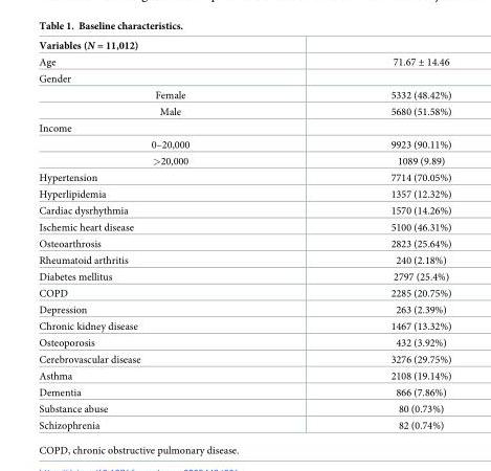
<table><thead><tr><td>Variables (N = 11,012)</td><td></td></tr></thead><tbody><tr><td>Age</td><td>71.67 ± 14.46</td></tr><tr><td colspan="2">Gender</td></tr><tr><td>Female</td><td>5332 (48.42%)</td></tr><tr><td>Male</td><td>5680 (51.58%)</td></tr><tr><td colspan="2">Income</td></tr><tr><td>0–20,000</td><td>9923 (90.11%)</td></tr><tr><td>&gt;20,000</td><td>1089 (9.89)</td></tr><tr><td>Hypertension</td><td>7714 (70.05%)</td></tr><tr><td>Hyperlipidemia</td><td>1357 (12.32%)</td></tr><tr><td>Cardiac dysrhythmia</td><td>1570 (14.26%)</td></tr><tr><td>Ischemic heart disease</td><td>5100 (46.31%)</td></tr><tr><td>Osteoarthrosis</td><td>2823 (25.64%)</td></tr><tr><td>Rheumatoid arthritis</td><td>240 (2.18%)</td></tr><tr><td>Diabetes mellitus</td><td>2797 (25.4%)</td></tr><tr><td>COPD</td><td>2285 (20.75%)</td></tr><tr><td>Depression</td><td>263 (2.39%)</td></tr><tr><td>Chronic kidney disease</td><td>1467 (13.32%)</td></tr><tr><td>Osteoporosis</td><td>432 (3.92%)</td></tr><tr><td>Cerebrovascular disease</td><td>3276 (29.75%)</td></tr><tr><td>Asthma</td><td>2108 (19.14%)</td></tr><tr><td>Dementia</td><td>866 (7.86%)</td></tr><tr><td>Substance abuse</td><td>80 (0.73%)</td></tr><tr><td>Schizophrenia</td><td>82 (0.74%)</td></tr></tbody></table>